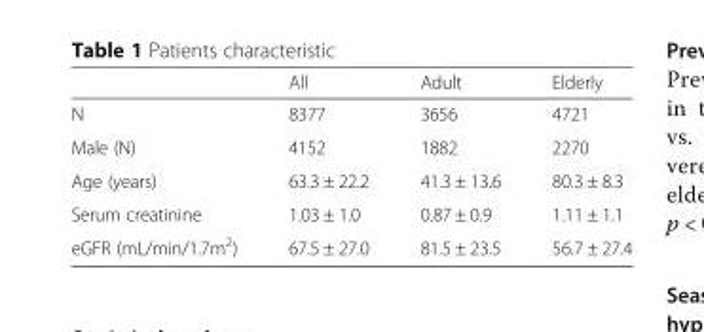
<table><thead><tr><td></td><td>All</td><td>Adult</td><td>Elderly</td></tr></thead><tbody><tr><td>N</td><td>8377</td><td>3656</td><td>4721</td></tr><tr><td>Male (N)</td><td>4152</td><td>1882</td><td>2270</td></tr><tr><td>Age (years)</td><td>63.3 ± 22.2</td><td>41.3 ± 13.6</td><td>80.3 ± 8.3</td></tr><tr><td>Serum creatinine</td><td>1.03 ± 1.0</td><td>0.87 ± 0.9</td><td>1.11 ± 1.1</td></tr><tr><td>eGFR (mL/min/1.7m<sup>2</sup>)</td><td>67.5 ± 27.0</td><td>81.5 ± 23.5</td><td>56.7 ± 27.4</td></tr></tbody></table>